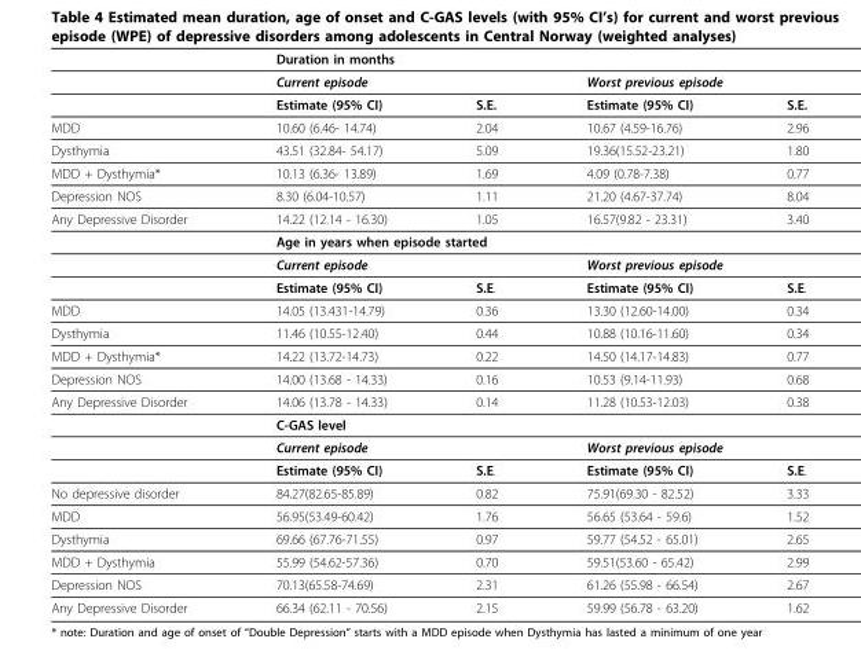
<table><thead><tr><td rowspan="3"></td><td colspan="4">Duration in months</td></tr><tr><td colspan="2">Current episode</td><td colspan="2">Worst previous episode</td></tr><tr><td>Estimate (95% CI)</td><td>S.E.</td><td>Estimate (95% CI)</td><td>S.E.</td></tr></thead><tbody><tr><td>MDD</td><td>10.60 (6.46- 14.74)</td><td>2.04</td><td>10.67 (4.59-16.76)</td><td>2.96</td></tr><tr><td>Dysthymia</td><td>43.51 (32.84- 54.17)</td><td>5.09</td><td>19.36(15.52-23.21)</td><td>1.80</td></tr><tr><td>MDD + Dysthymia*</td><td>10.13 (6.36- 13.89)</td><td>1.69</td><td>4.09 (0.78-7.38)</td><td>0.77</td></tr><tr><td>Depression NOS</td><td>8.30 (6.04-10.57)</td><td>1.11</td><td>21.20 (4.67-37.74)</td><td>8.04</td></tr><tr><td rowspan="4">Any Depressive Disorder</td><td>14.22 (12.14 - 16.30)</td><td>1.05</td><td>16.57(9.82 - 23.31)</td><td>3.40</td></tr><tr><td colspan="4">Age in years when episode started</td></tr><tr><td colspan="2">Current episode</td><td colspan="2">Worst previous episode</td></tr><tr><td>Estimate (95% CI)</td><td>S.E.</td><td>Estimate (95% CI)</td><td>S.E.</td></tr><tr><td>MDD</td><td>14.05 (13.431-14.79)</td><td>0.36</td><td>13.30 (12.60-14.00)</td><td>0.34</td></tr><tr><td>Dysthymia</td><td>11.46 (10.55-12.40)</td><td>0.44</td><td>10.88 (10.16-11.60)</td><td>0.34</td></tr><tr><td>MDD + Dysthymia*</td><td>14.22 (13.72-14.73)</td><td>0.22</td><td>14.50 (14.17-14.83)</td><td>0.77</td></tr><tr><td>Depression NOS</td><td>14.00 (13.68 - 14.33)</td><td>0.16</td><td>10.53 (9.14-11.93)</td><td>0.68</td></tr><tr><td rowspan="4">Any Depressive Disorder</td><td>14.06 (13.78 - 14.33)</td><td>0.14</td><td>11.28 (10.53-12.03)</td><td>0.38</td></tr><tr><td colspan="4">C-GAS level</td></tr><tr><td colspan="2">Current episode</td><td colspan="2">Worst previous episode</td></tr><tr><td>Estimate (95% CI)</td><td>S.E.</td><td>Estimate (95% CI)</td><td>S.E.</td></tr><tr><td>No depressive disorder</td><td>84.27(82.65-85.89)</td><td>0.82</td><td>75.91(69.30 - 82.52)</td><td>3.33</td></tr><tr><td>MDD</td><td>56.95(53.49-60.42)</td><td>1.76</td><td>56.65 (53.64 - 59.6)</td><td>1.52</td></tr><tr><td>Dysthymia</td><td>69.66 (67.76-71.55)</td><td>0.97</td><td>59.77 (54.52 - 65.01)</td><td>2.65</td></tr><tr><td>MDD + Dysthymia</td><td>55.99 (54.62-57.36)</td><td>0.70</td><td>59.51(53.60 - 65.42)</td><td>2.99</td></tr><tr><td>Depression NOS</td><td>70.13(65.58-74.69)</td><td>2.31</td><td>61.26 (55.98 - 66.54)</td><td>2.67</td></tr><tr><td>Any Depressive Disorder</td><td>66.34 (62.11 - 70.56)</td><td>2.15</td><td>59.99 (56.78 - 63.20)</td><td>1.62</td></tr></tbody></table>